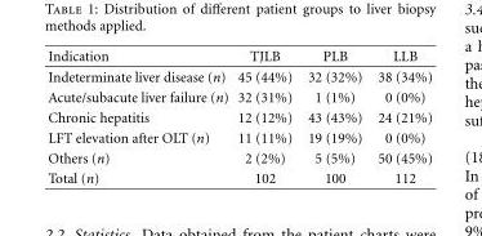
<table><thead><tr><td>Indication</td><td>TJLB</td><td>PLB</td><td>LLB</td></tr></thead><tbody><tr><td>Indeterminate liver disease (n)</td><td>45 (44%)</td><td>32 (32%)</td><td>38 (34%)</td></tr><tr><td>Acute/subacute liver failure (n)</td><td>32 (31%)</td><td>1 (1%)</td><td>0 (0%)</td></tr><tr><td>Chronic hepatitis</td><td>12 (12%)</td><td>43 (43%)</td><td>24 (21%)</td></tr><tr><td>LFT elevation after OLT (n)</td><td>11 (11%)</td><td>19 (19%)</td><td>0 (0%)</td></tr><tr><td>Others (n)</td><td>2 (2%)</td><td>5 (5%)</td><td>50 (45%)</td></tr><tr><td>Total (n)</td><td>102</td><td>100</td><td>112</td></tr></tbody></table>